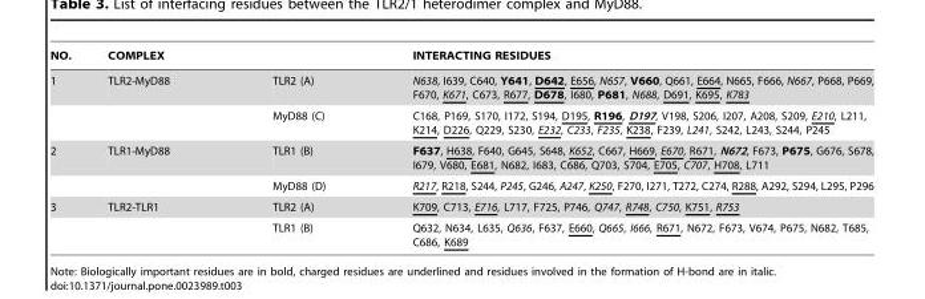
<table><thead><tr><td rowspan="2">NO. 1</td><td colspan="2">COMPLEX</td><td rowspan="2">INTERACTING RESIDUES N638, I639, C640, Y641, D642, E656, N657, V660, Q661, E664, N665, F666, N667, P668, P669, F670, K671, C673, R677, D678, I680, P681, N688, D691, K695, K783</td></tr><tr><td>TLR2-MyD88</td><td>TLR2 (A)</td></tr></thead><tbody><tr><td></td><td></td><td>MyD88 (C)</td><td>C168, P169, S170, I172, S194, D195, R196, D197, V198, S206, I207, A208, S209, E210, L211, K214, D226, Q229, S230, E232, C233, F235, K238, F239, L241, S242, L243, S244, P245</td></tr><tr><td rowspan="2">2</td><td>TLR1-MyD88</td><td>TLR1 (B)</td><td>F637, H638, F640, G645, S648, K652, C667, H669, E670, R671, N672, F673, P675, G676, S678, I679, V680, E681, N682, I683, C686, Q703, S704, E705, C707, H708, L711</td></tr><tr><td></td><td>MyD88 (D)</td><td>R217, R218, S244, P245, G246, A247, K250, F270, I271, T272, C274, R288, A292, S294, L295, P296</td></tr><tr><td rowspan="2">3</td><td>TLR2-TLR1</td><td>TLR2 (A)</td><td>K709, C713, E716, L717, F725, P746, Q747, R748, C750, K751, R753</td></tr><tr><td></td><td>TLR1 (B)</td><td>Q632, N634, L635, Q636, F637, E660, Q665, I666, R671, N672, F673, V674, P675, N682, T685, C686, K689</td></tr></tbody></table>